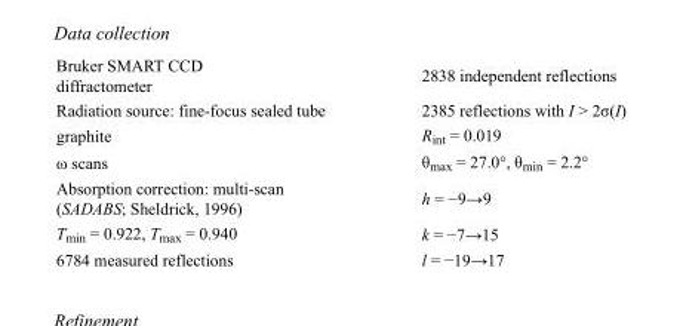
<table><tbody><tr><td>Bruker SMART CCD diffractometer</td><td>2838 independent reflections</td></tr><tr><td>Radiation source: fine-focus sealed tube</td><td>2385 reflections with I &gt; 2σ(I)</td></tr><tr><td>graphite</td><td>R<sub>int</sub> = 0.019</td></tr><tr><td>ω scans</td><td>θ<sub>max</sub> = 27.0°, θ<sub>min</sub> = 2.2°</td></tr><tr><td>Absorption correction: multi-scan (SADABS; Sheldrick, 1996)</td><td>h = −9→9</td></tr><tr><td>T<sub>min</sub> = 0.922, T<sub>max</sub> = 0.940</td><td>k = −7→15</td></tr><tr><td>6784 measured reflections</td><td>l = −19→17</td></tr></tbody></table>